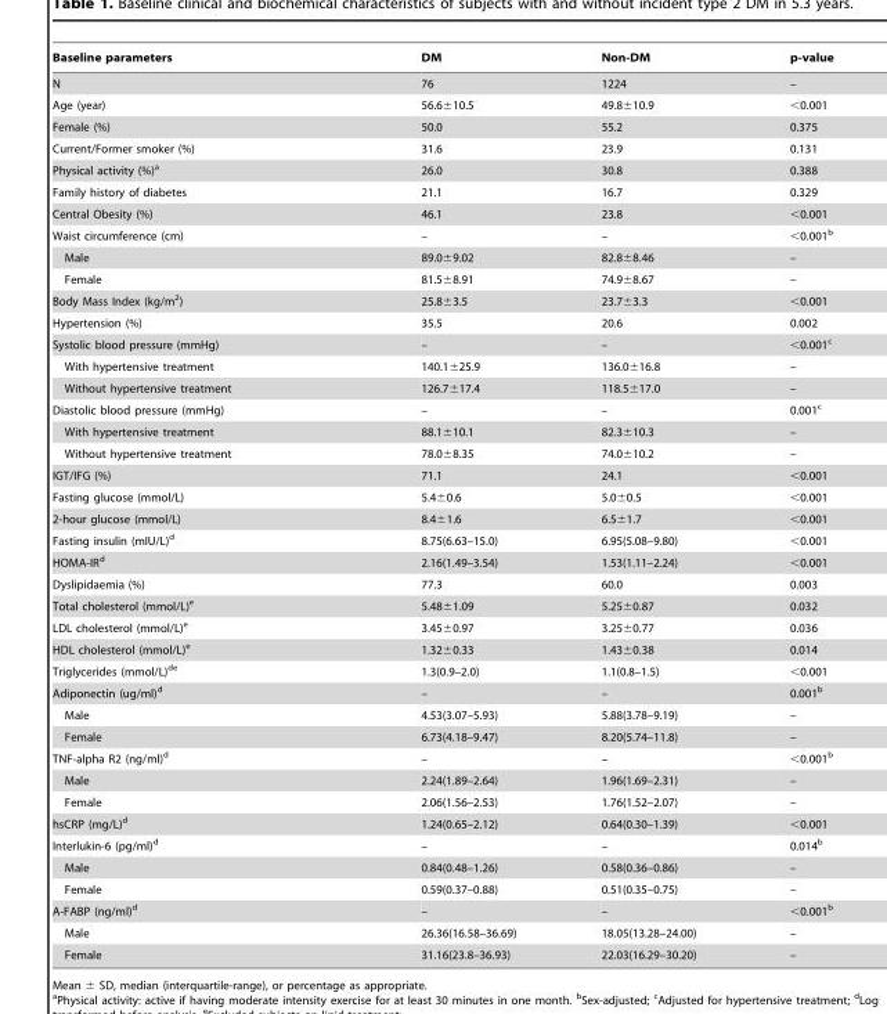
<table><thead><tr><td>Baseline parameters</td><td>DM</td><td>Non-DM</td><td>p-value</td></tr></thead><tbody><tr><td>N</td><td>76</td><td>1224</td><td>–</td></tr><tr><td>Age (year)</td><td>56.6±10.5</td><td>49.8±10.9</td><td>&lt;0.001</td></tr><tr><td>Female (%)</td><td>50.0</td><td>55.2</td><td>0.375</td></tr><tr><td>Current/Former smoker (%)</td><td>31.6</td><td>23.9</td><td>0.131</td></tr><tr><td>Physical activity (%)<sup>a</sup></td><td>26.0</td><td>30.8</td><td>0.388</td></tr><tr><td>Family history of diabetes</td><td>21.1</td><td>16.7</td><td>0.329</td></tr><tr><td>Central Obesity (%)</td><td>46.1</td><td>23.8</td><td>&lt;0.001</td></tr><tr><td>Waist circumference (cm)</td><td>–</td><td>–</td><td>&lt;0.001<sup>b</sup></td></tr><tr><td>Male</td><td>89.0±9.02</td><td>82.8±8.46</td><td>–</td></tr><tr><td>Female</td><td>81.5±8.91</td><td>74.9±8.67</td><td>–</td></tr><tr><td>Body Mass Index (kg/m<sup>2</sup>)</td><td>25.8±3.5</td><td>23.7±3.3</td><td>&lt;0.001</td></tr><tr><td>Hypertension (%)</td><td>35.5</td><td>20.6</td><td>0.002</td></tr><tr><td>Systolic blood pressure (mmHg)</td><td>–</td><td>–</td><td>&lt;0.001<sup>c</sup></td></tr><tr><td>With hypertensive treatment</td><td>140.1±25.9</td><td>136.0±16.8</td><td>–</td></tr><tr><td>Without hypertensive treatment</td><td>126.7±17.4</td><td>118.5±17.0</td><td>–</td></tr><tr><td>Diastolic blood pressure (mmHg)</td><td>–</td><td>–</td><td>0.001<sup>c</sup></td></tr><tr><td>With hypertensive treatment</td><td>88.1±10.1</td><td>82.3±10.3</td><td>–</td></tr><tr><td>Without hypertensive treatment</td><td>78.0±8.35</td><td>74.0±10.2</td><td>–</td></tr><tr><td>IGT/IFG (%)</td><td>71.1</td><td>24.1</td><td>&lt;0.001</td></tr><tr><td>Fasting glucose (mmol/L)</td><td>5.4±0.6</td><td>5.0±0.5</td><td>&lt;0.001</td></tr><tr><td>2-hour glucose (mmol/L)</td><td>8.4±1.6</td><td>6.5±1.7</td><td>&lt;0.001</td></tr><tr><td>Fasting insulin (mIU/L)<sup>d</sup></td><td>8.75(6.63–15.0)</td><td>6.95(5.08–9.80)</td><td>&lt;0.001</td></tr><tr><td>HOMA-IR<sup>d</sup></td><td>2.16(1.49–3.54)</td><td>1.53(1.11–2.24)</td><td>&lt;0.001</td></tr><tr><td>Dyslipidaemia (%)</td><td>77.3</td><td>60.0</td><td>0.003</td></tr><tr><td>Total cholesterol (mmol/L)<sup>e</sup></td><td>5.48±1.09</td><td>5.25±0.87</td><td>0.032</td></tr><tr><td>LDL cholesterol (mmol/L)<sup>e</sup></td><td>3.45±0.97</td><td>3.25±0.77</td><td>0.036</td></tr><tr><td>HDL cholesterol (mmol/L)<sup>e</sup></td><td>1.32±0.33</td><td>1.43±0.38</td><td>0.014</td></tr><tr><td>Triglycerides (mmol/L)<sup>de</sup></td><td>1.3(0.9–2.0)</td><td>1.1(0.8–1.5)</td><td>&lt;0.001</td></tr><tr><td>Adiponectin (ug/ml)<sup>d</sup></td><td>–</td><td>–</td><td>0.001<sup>b</sup></td></tr><tr><td>Male</td><td>4.53(3.07–5.93)</td><td>5.88(3.78–9.19)</td><td>–</td></tr><tr><td>Female</td><td>6.73(4.18–9.47)</td><td>8.20(5.74–11.8)</td><td>–</td></tr><tr><td>TNF-alpha R2 (ng/ml)<sup>d</sup></td><td>–</td><td>–</td><td>&lt;0.001<sup>b</sup></td></tr><tr><td>Male</td><td>2.24(1.89–2.64)</td><td>1.96(1.69–2.31)</td><td>–</td></tr><tr><td>Female</td><td>2.06(1.56–2.53)</td><td>1.76(1.52–2.07)</td><td>–</td></tr><tr><td>hsCRP (mg/L)<sup>d</sup></td><td>1.24(0.65–2.12)</td><td>0.64(0.30–1.39)</td><td>&lt;0.001</td></tr><tr><td>Interlukin-6 (pg/ml)<sup>d</sup></td><td>–</td><td>–</td><td>0.014<sup>b</sup></td></tr><tr><td>Male</td><td>0.84(0.48–1.26)</td><td>0.58(0.36–0.86)</td><td>–</td></tr><tr><td>Female</td><td>0.59(0.37–0.88)</td><td>0.51(0.35–0.75)</td><td>–</td></tr><tr><td>A-FABP (ng/ml)<sup>d</sup></td><td>–</td><td>–</td><td>&lt;0.001<sup>b</sup></td></tr><tr><td>Male</td><td>26.36(16.58–36.69)</td><td>18.05(13.28–24.00)</td><td>–</td></tr><tr><td>Female</td><td>31.16(23.8–36.93)</td><td>22.03(16.29–30.20)</td><td>–</td></tr></tbody></table>